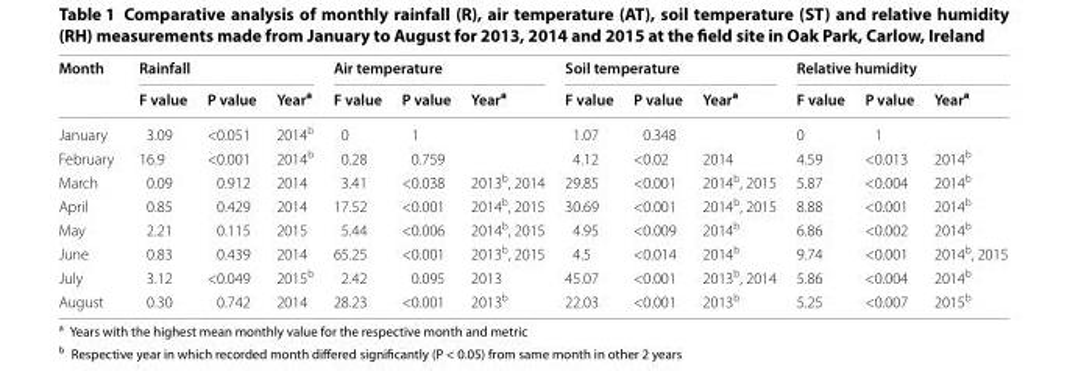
<table><thead><tr><td rowspan="2">Month</td><td colspan="3">Rainfall</td><td colspan="3">Air temperature</td><td colspan="3">Soil temperature</td><td colspan="3">Relative humidity</td></tr><tr><td>F value</td><td>P value</td><td>Year<sup>a</sup></td><td>F value</td><td>P value</td><td>Year<sup>a</sup></td><td>F value</td><td>P value</td><td>Year<sup>a</sup></td><td>F value</td><td>P value</td><td>Year<sup>a</sup></td></tr></thead><tbody><tr><td>January</td><td>3.09</td><td>&lt;0.051</td><td>2014<sup>b</sup></td><td>0</td><td>1</td><td></td><td>1.07</td><td>0.348</td><td></td><td>0</td><td>1</td><td></td></tr><tr><td>February</td><td>16.9</td><td>&lt;0.001</td><td>2014<sup>b</sup></td><td>0.28</td><td>0.759</td><td></td><td>4.12</td><td>&lt;0.02</td><td>2014</td><td>4.59</td><td>&lt;0.013</td><td>2014<sup>b</sup></td></tr><tr><td>March</td><td>0.09</td><td>0.912</td><td>2014</td><td>3.41</td><td>&lt;0.038</td><td>2013<sup>b</sup>, 2014</td><td>29.85</td><td>&lt;0.001</td><td>2014<sup>b</sup>, 2015</td><td>5.87</td><td>&lt;0.004</td><td>2014<sup>b</sup></td></tr><tr><td>April</td><td>0.85</td><td>0.429</td><td>2014</td><td>17.52</td><td>&lt;0.001</td><td>2014<sup>b</sup>, 2015</td><td>30.69</td><td>&lt;0.001</td><td>2014<sup>b</sup>, 2015</td><td>8.88</td><td>&lt;0.001</td><td>2014<sup>b</sup></td></tr><tr><td>May</td><td>2.21</td><td>0.115</td><td>2015</td><td>5.44</td><td>&lt;0.006</td><td>2014<sup>b</sup>, 2015</td><td>4.95</td><td>&lt;0.009</td><td>2014<sup>b</sup></td><td>6.86</td><td>&lt;0.002</td><td>2014<sup>b</sup></td></tr><tr><td>June</td><td>0.83</td><td>0.439</td><td>2014</td><td>65.25</td><td>&lt;0.001</td><td>2013<sup>b</sup>, 2015</td><td>4.5</td><td>&lt;0.014</td><td>2014<sup>b</sup></td><td>9.74</td><td>&lt;0.001</td><td>2014<sup>b</sup>, 2015</td></tr><tr><td>July</td><td>3.12</td><td>&lt;0.049</td><td>2015<sup>b</sup></td><td>2.42</td><td>0.095</td><td>2013</td><td>45.07</td><td>&lt;0.001</td><td>2013<sup>b</sup>, 2014</td><td>5.86</td><td>&lt;0.004</td><td>2014<sup>b</sup></td></tr><tr><td>August</td><td>0.30</td><td>0.742</td><td>2014</td><td>28.23</td><td>&lt;0.001</td><td>2013<sup>b</sup></td><td>22.03</td><td>&lt;0.001</td><td>2013<sup>b</sup></td><td>5.25</td><td>&lt;0.007</td><td>2015<sup>b</sup></td></tr></tbody></table>